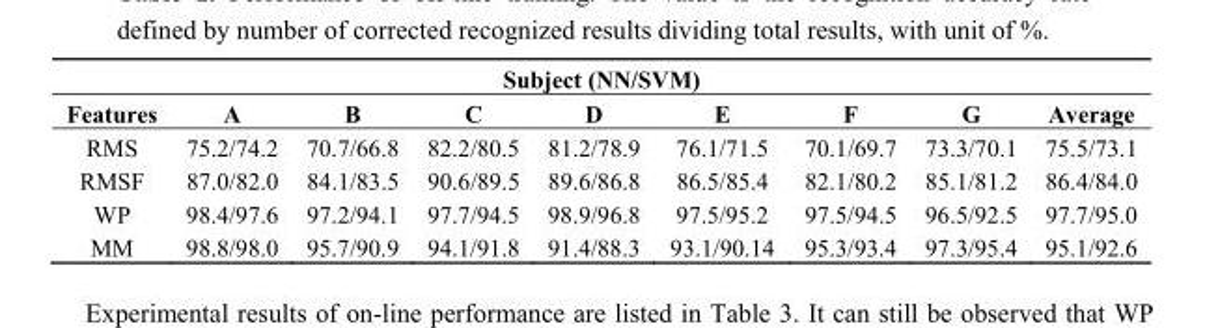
<table><thead><tr><td rowspan="2">Features</td><td colspan="7">Subject (NN/SVM)</td><td rowspan="2">Average</td></tr><tr><td>A</td><td>B</td><td>C</td><td>D</td><td>E</td><td>F</td><td>G</td></tr></thead><tbody><tr><td>RMS</td><td>75.2/74.2</td><td>70.7/66.8</td><td>82.2/80.5</td><td>81.2/78.9</td><td>76.1/71.5</td><td>70.1/69.7</td><td>73.3/70.1</td><td>75.5/73.1</td></tr><tr><td>RMSF</td><td>87.0/82.0</td><td>84.1/83.5</td><td>90.6/89.5</td><td>89.6/86.8</td><td>86.5/85.4</td><td>82.1/80.2</td><td>85.1/81.2</td><td>86.4/84.0</td></tr><tr><td>WP</td><td>98.4/97.6</td><td>97.2/94.1</td><td>97.7/94.5</td><td>98.9/96.8</td><td>97.5/95.2</td><td>97.5/94.5</td><td>96.5/92.5</td><td>97.7/95.0</td></tr><tr><td>MM</td><td>98.8/98.0</td><td>95.7/90.9</td><td>94.1/91.8</td><td>91.4/88.3</td><td>93.1/90.14</td><td>95.3/93.4</td><td>97.3/95.4</td><td>95.1/92.6</td></tr></tbody></table>